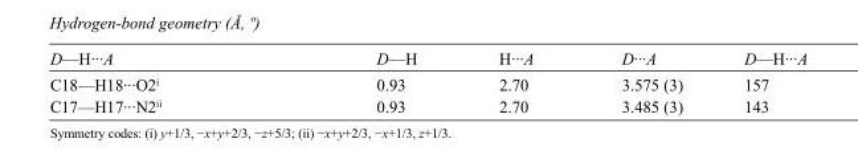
<table><tbody><tr><td>D—H···A</td><td>D—H</td><td>H···A</td><td>D···A</td><td>D—H···A</td></tr><tr><td>C18—H18···O2<sup>i</sup></td><td>0.93</td><td>2.70</td><td>3.575 (3)</td><td>157</td></tr><tr><td>C17—H17···N2<sup>ii</sup></td><td>0.93</td><td>2.70</td><td>3.485 (3)</td><td>143</td></tr></tbody></table>